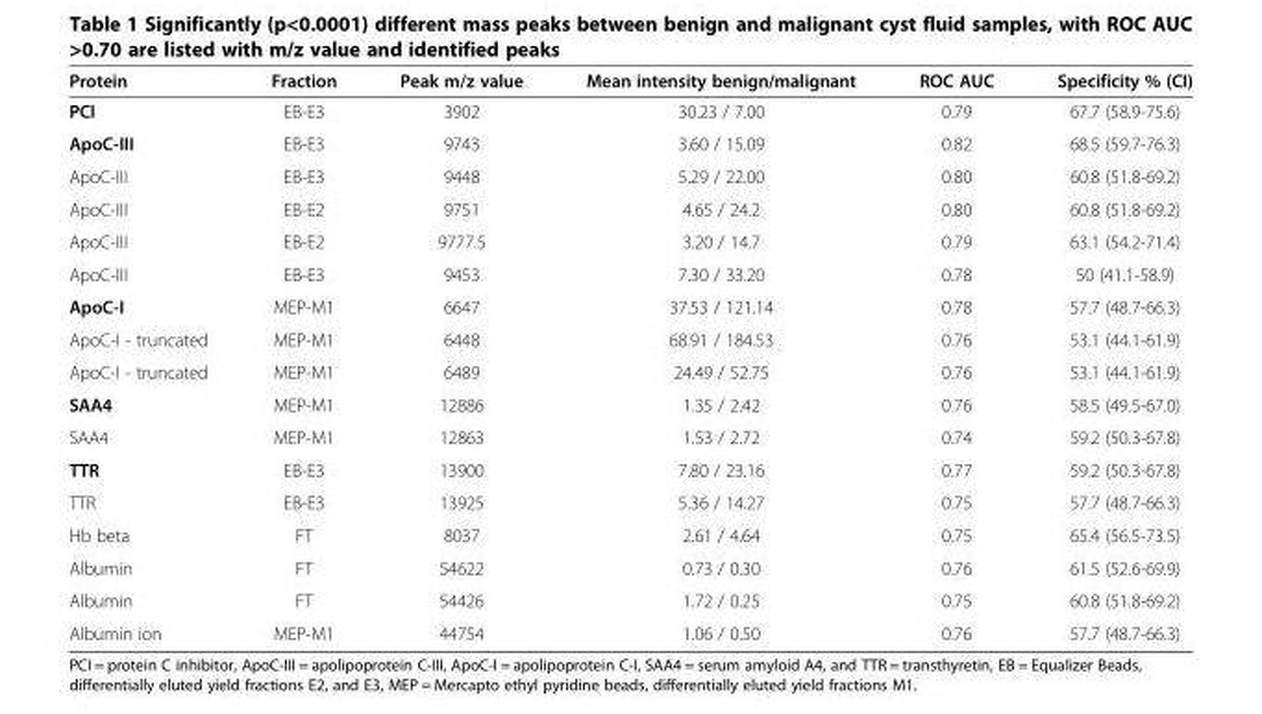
<table><thead><tr><td>Protein</td><td>Fraction</td><td>Peak m/z value</td><td>Mean intensity benign/malignant</td><td>ROC AUC</td><td>Specificity % (CI)</td></tr></thead><tbody><tr><td>PCI</td><td>EB-E3</td><td>3902</td><td>30.23 / 7.00</td><td>0.79</td><td>67.7 (58.9-75.6)</td></tr><tr><td>ApoC-III</td><td>EB-E3</td><td>9743</td><td>3.60 / 15.09</td><td>0.82</td><td>68.5 (59.7-76.3)</td></tr><tr><td>ApoC-III</td><td>EB-E3</td><td>9448</td><td>5.29 / 22.00</td><td>0.80</td><td>60.8 (51.8-69.2)</td></tr><tr><td>ApoC-III</td><td>EB-E2</td><td>9751</td><td>4.65 / 24.2</td><td>0.80</td><td>60.8 (51.8-69.2)</td></tr><tr><td>ApoC-III</td><td>EB-E2</td><td>9777.5</td><td>3.20 / 14.7</td><td>0.79</td><td>63.1 (54.2-71.4)</td></tr><tr><td>ApoC-III</td><td>EB-E3</td><td>9453</td><td>7.30 / 33.20</td><td>0.78</td><td>50 (41.1-58.9)</td></tr><tr><td>ApoC-I</td><td>MEP-M1</td><td>6647</td><td>37.53 / 121.14</td><td>0.78</td><td>57.7 (48.7-66.3)</td></tr><tr><td>ApoC-I - truncated</td><td>MEP-M1</td><td>6448</td><td>68.91 / 184.53</td><td>0.76</td><td>53.1 (44.1-61.9)</td></tr><tr><td>ApoC-I - truncated</td><td>MEP-M1</td><td>6489</td><td>24.49 / 52.75</td><td>0.76</td><td>53.1 (44.1-61.9)</td></tr><tr><td>SAA4</td><td>MEP-M1</td><td>12886</td><td>1.35 / 2.42</td><td>0.76</td><td>58.5 (49.5-67.0)</td></tr><tr><td>SAA4</td><td>MEP-M1</td><td>12863</td><td>1.53 / 2.72</td><td>0.74</td><td>59.2 (50.3-67.8)</td></tr><tr><td>TTR</td><td>EB-E3</td><td>13900</td><td>7.80 / 23.16</td><td>0.77</td><td>59.2 (50.3-67.8)</td></tr><tr><td>TTR</td><td>EB-E3</td><td>13925</td><td>5.36 / 14.27</td><td>0.75</td><td>57.7 (48.7-66.3)</td></tr><tr><td>Hb beta</td><td>FT</td><td>8037</td><td>2.61 / 4.64</td><td>0.75</td><td>65.4 (56.5-73.5)</td></tr><tr><td>Albumin</td><td>FT</td><td>54622</td><td>0.73 / 0.30</td><td>0.76</td><td>61.5 (52.6-69.9)</td></tr><tr><td>Albumin</td><td>FT</td><td>54426</td><td>1.72 / 0.25</td><td>0.75</td><td>60.8 (51.8-69.2)</td></tr><tr><td>Albumin ion</td><td>MEP-M1</td><td>44754</td><td>1.06 / 0.50</td><td>0.76</td><td>57.7 (48.7-66.3)</td></tr></tbody></table>